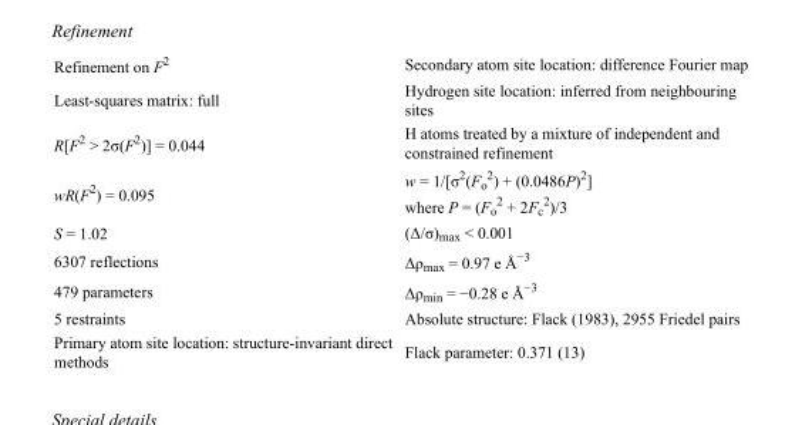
<table><tbody><tr><td>Refinement on F<sup>2</sup></td><td>Secondary atom site location: difference Fourier map</td></tr><tr><td>Least-squares matrix: full</td><td>Hydrogen site location: inferred from neighbouring sites</td></tr><tr><td>R[F<sup>2</sup> &gt; 2σ(F<sup>2</sup>)] = 0.044</td><td>H atoms treated by a mixture of independent and constrained refinement</td></tr><tr><td>wR(F<sup>2</sup>) = 0.095</td><td>w = 1/[σ<sup>2</sup>(F<sub>o</sub> <sup>2</sup>) + (0.0486P)<sup>2</sup>] where P = (F<sub>o</sub> <sup>2</sup> + 2F<sub>c</sub> <sup>2</sup>)/3</td></tr><tr><td>S = 1.02</td><td>(Δ/σ)<sub>max</sub> &lt; 0.001</td></tr><tr><td>6307 reflections</td><td>Δρ<sub>max</sub> = 0.97 e Å<sup>−3</sup></td></tr><tr><td>479 parameters</td><td>Δρ<sub>min</sub> = −0.28 e Å<sup>−3</sup></td></tr><tr><td>5 restraints</td><td>Absolute structure: Flack (1983), 2955 Friedel pairs</td></tr><tr><td>Primary atom site location: structure-invariant direct methods</td><td>Flack parameter: 0.371 (13)</td></tr></tbody></table>